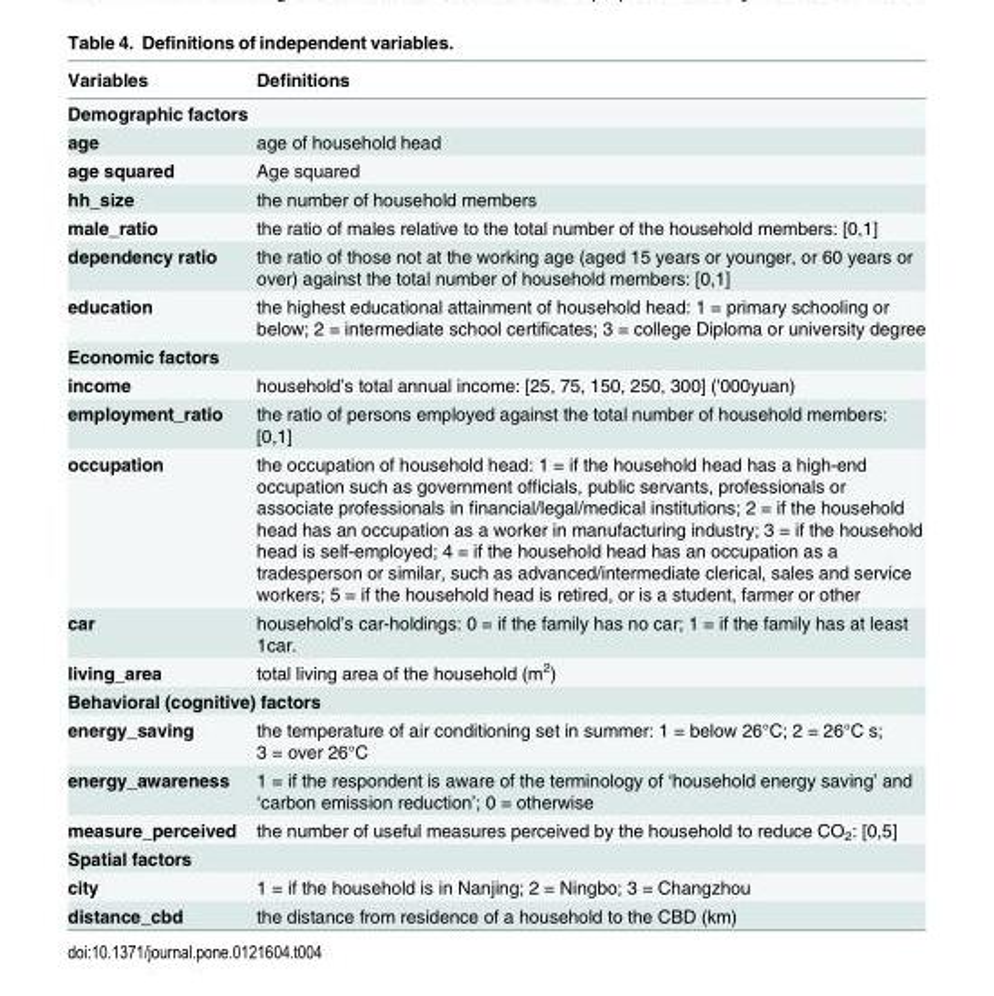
<table><thead><tr><td>Variables</td><td>Definitions</td></tr></thead><tbody><tr><td colspan="2">Demographic factors</td></tr><tr><td>age</td><td>age of household head</td></tr><tr><td>age squared</td><td>Age squared</td></tr><tr><td>hh_size</td><td>the number of household members</td></tr><tr><td>male_ratio</td><td>the ratio of males relative to the total number of the household members: [0,1]</td></tr><tr><td>dependency ratio</td><td>the ratio of those not at the working age (aged 15 years or younger, or 60 years or over) against the total number of household members: [0,1]</td></tr><tr><td>education</td><td>the highest educational attainment of household head: 1 = primary schooling or below; 2 = intermediate school certificates; 3 = college Diploma or university degree</td></tr><tr><td colspan="2">Economic factors</td></tr><tr><td>income</td><td>household’s total annual income: [25, 75, 150, 250, 300] (&#x27;000yuan)</td></tr><tr><td>employment_ratio</td><td>the ratio of persons employed against the total number of household members: [0,1]</td></tr><tr><td>occupation</td><td>the occupation of household head: 1 = if the household head has a high-end occupation such as government officials, public servants, professionals or associate professionals in financial/legal/medical institutions; 2 = if the household head has an occupation as a worker in manufacturing industry; 3 = if the household head is self-employed; 4 = if the household head has an occupation as a tradesperson or similar, such as advanced/intermediate clerical, sales and service workers; 5 = if the household head is retired, or is a student, farmer or other</td></tr><tr><td>car</td><td>household’s car-holdings: 0 = if the family has no car; 1 = if the family has at least 1car.</td></tr><tr><td>living_area</td><td>total living area of the household (m<sup>2</sup>)</td></tr><tr><td colspan="2">Behavioral (cognitive) factors</td></tr><tr><td>energy_saving</td><td>the temperature of air conditioning set in summer: 1 = below 26°C; 2 = 26°C s; 3 = over 26°C</td></tr><tr><td>energy_awareness</td><td>1 = if the respondent is aware of the terminology of ‘household energy saving’ and ‘carbon emission reduction’; 0 = otherwise</td></tr><tr><td>measure_perceived</td><td>the number of useful measures perceived by the household to reduce CO<sub>2</sub>: [0,5]</td></tr><tr><td colspan="2">Spatial factors</td></tr><tr><td>city</td><td>1 = if the household is in Nanjing; 2 = Ningbo; 3 = Changzhou</td></tr><tr><td>distance_cbd</td><td>the distance from residence of a household to the CBD (km)</td></tr></tbody></table>